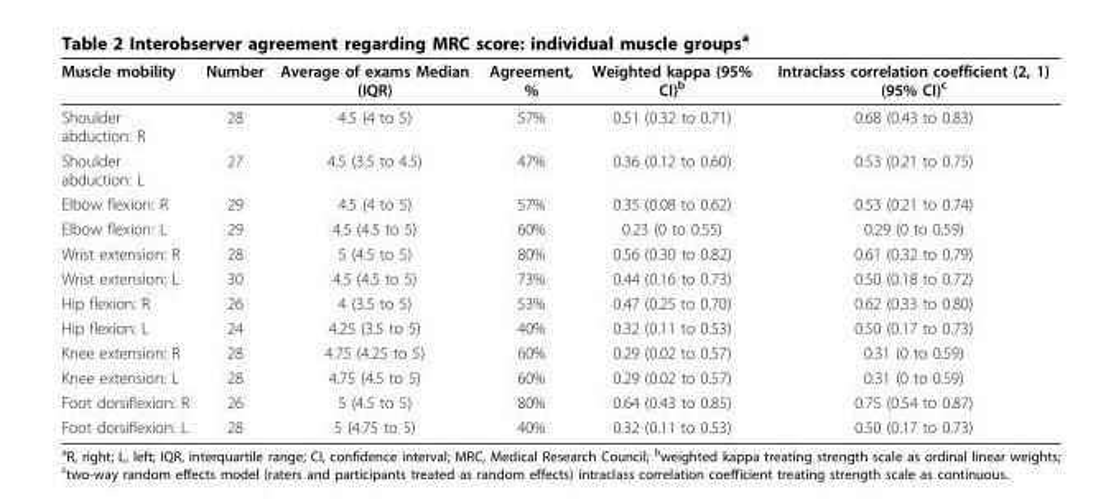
<table><thead><tr><td>Muscle mobility</td><td>Number</td><td>Average of exams Median (IQR)</td><td>Agreement, %</td><td>Weighted kappa (95% CI)<sup>b</sup></td><td>Intraclass correlation coefficient (2, 1) (95% CI)<sup>c</sup></td></tr></thead><tbody><tr><td>Shoulder abduction: R</td><td>28</td><td>4.5 (4 to 5)</td><td>57%</td><td>0.51 (0.32 to 0.71)</td><td>0.68 (0.43 to 0.83)</td></tr><tr><td>Shoulder abduction: L</td><td>27</td><td>4.5 (3.5 to 4.5)</td><td>47%</td><td>0.36 (0.12 to 0.60)</td><td>0.53 (0.21 to 0.75)</td></tr><tr><td>Elbow flexion: R</td><td>29</td><td>4.5 (4 to 5)</td><td>57%</td><td>0.35 (0.08 to 0.62)</td><td>0.53 (0.21 to 0.74)</td></tr><tr><td>Elbow flexion: L</td><td>29</td><td>4.5 (4.5 to 5)</td><td>60%</td><td>0.23 (0 to 0.55)</td><td>0.29 (0 to 0.59)</td></tr><tr><td>Wrist extension: R</td><td>28</td><td>5 (4.5 to 5)</td><td>80%</td><td>0.56 (0.30 to 0.82)</td><td>0.61 (0.32 to 0.79)</td></tr><tr><td>Wrist extension: L</td><td>30</td><td>4.5 (4.5 to 5)</td><td>73%</td><td>0.44 (0.16 to 0.73)</td><td>0.50 (0.18 to 0.72)</td></tr><tr><td>Hip flexion: R</td><td>26</td><td>4 (3.5 to 5)</td><td>53%</td><td>0.47 (0.25 to 0.70)</td><td>0.62 (0.33 to 0.80)</td></tr><tr><td>Hip flexion: L</td><td>24</td><td>4.25 (3.5 to 5)</td><td>40%</td><td>0.32 (0.11 to 0.53)</td><td>0.50 (0.17 to 0.73)</td></tr><tr><td>Knee extension: R</td><td>28</td><td>4.75 (4.25 to 5)</td><td>60%</td><td>0.29 (0.02 to 0.57)</td><td>0.31 (0 to 0.59)</td></tr><tr><td>Knee extension: L</td><td>28</td><td>4.75 (4.5 to 5)</td><td>60%</td><td>0.29 (0.02 to 0.57)</td><td>0.31 (0 to 0.59)</td></tr><tr><td>Foot dorsiflexion: R</td><td>26</td><td>5 (4.5 to 5)</td><td>80%</td><td>0.64 (0.43 to 0.85)</td><td>0.75 (0.54 to 0.87)</td></tr><tr><td>Foot dorsiflexion: L</td><td>28</td><td>5 (4.75 to 5)</td><td>40%</td><td>0.32 (0.11 to 0.53)</td><td>0.50 (0.17 to 0.73)</td></tr></tbody></table>